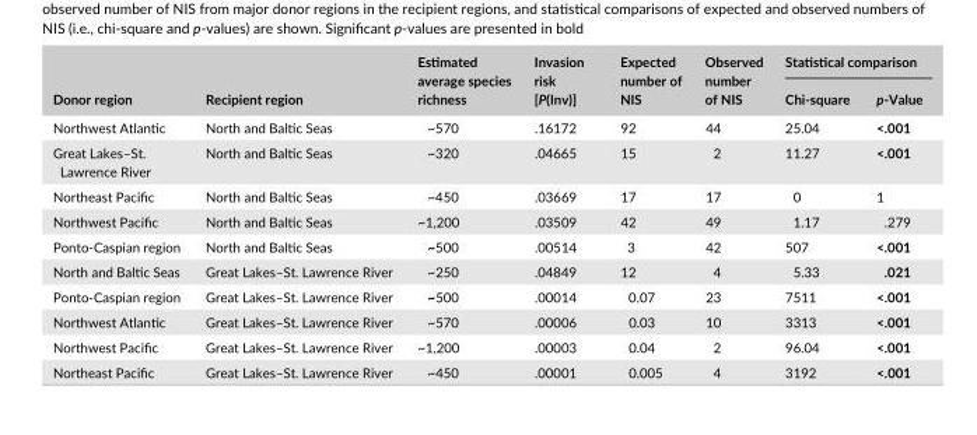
<table><thead><tr><td rowspan="2">Donor region</td><td rowspan="2">Recipient region</td><td rowspan="2">Estimated average species richness</td><td rowspan="2">Invasion risk [P(Inv)]</td><td rowspan="2">Expected number of NIS</td><td rowspan="2">Observed number of NIS</td><td colspan="2">Statistical comparison</td></tr><tr><td>Chi- square</td><td>p- Value</td></tr></thead><tbody><tr><td>Northwest Atlantic</td><td>North and Baltic Seas</td><td>~570</td><td>.16172</td><td>92</td><td>44</td><td>25.04</td><td>&lt;.001</td></tr><tr><td>Great Lakes–St. Lawrence River</td><td>North and Baltic Seas</td><td>~320</td><td>.04665</td><td>15</td><td>2</td><td>11.27</td><td>&lt;.001</td></tr><tr><td>Northeast Pacific</td><td>North and Baltic Seas</td><td>~450</td><td>.03669</td><td>17</td><td>17</td><td>0</td><td>1</td></tr><tr><td>Northwest Pacific</td><td>North and Baltic Seas</td><td>~1,200</td><td>.03509</td><td>42</td><td>49</td><td>1.17</td><td>.279</td></tr><tr><td>Ponto- Caspian region</td><td>North and Baltic Seas</td><td>~500</td><td>.00514</td><td>3</td><td>42</td><td>507</td><td>&lt;.001</td></tr><tr><td>North and Baltic Seas</td><td>Great Lakes–St. Lawrence River</td><td>~250</td><td>.04849</td><td>12</td><td>4</td><td>5.33</td><td>.021</td></tr><tr><td>Ponto- Caspian region</td><td>Great Lakes–St. Lawrence River</td><td>~500</td><td>.00014</td><td>0.07</td><td>23</td><td>7511</td><td>&lt;.001</td></tr><tr><td>Northwest Atlantic</td><td>Great Lakes–St. Lawrence River</td><td>~570</td><td>.00006</td><td>0.03</td><td>10</td><td>3313</td><td>&lt;.001</td></tr><tr><td>Northwest Pacific</td><td>Great Lakes–St. Lawrence River</td><td>~1,200</td><td>.00003</td><td>0.04</td><td>2</td><td>96.04</td><td>&lt;.001</td></tr><tr><td>Northeast Pacific</td><td>Great Lakes–St. Lawrence River</td><td>~450</td><td>.00001</td><td>0.005</td><td>4</td><td>3192</td><td>&lt;.001</td></tr></tbody></table>